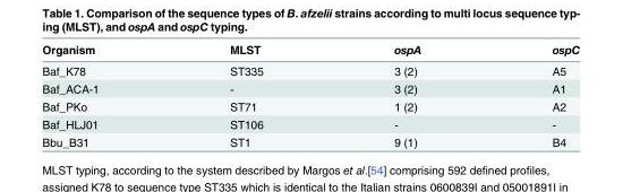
<table><thead><tr><td>Organism</td><td>MLST</td><td>ospA</td><td>ospC</td></tr></thead><tbody><tr><td>Baf_K78</td><td>ST335</td><td>3 (2)</td><td>A5</td></tr><tr><td>Baf_ACA-1</td><td>-</td><td>3 (2)</td><td>A1</td></tr><tr><td>Baf_PKo</td><td>ST71</td><td>1 (2)</td><td>A2</td></tr><tr><td>Baf_HLJ01</td><td>ST106</td><td>-</td><td>-</td></tr><tr><td>Bbu_B31</td><td>ST1</td><td>9 (1)</td><td>B4</td></tr></tbody></table>